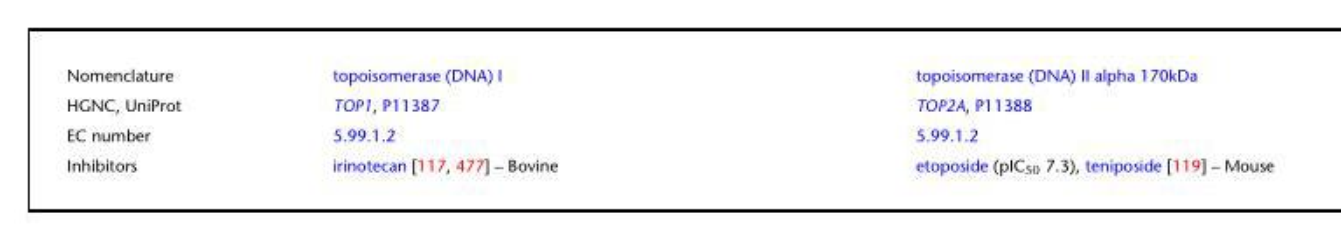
<table><tbody><tr><td>Nomenclature</td><td>topoisomerase (DNA) I</td><td>topoisomerase (DNA) II alpha 170kDa</td></tr><tr><td>HGNC, UniProt</td><td>TOP1, P11387</td><td>TOP2A, P11388</td></tr><tr><td>EC number</td><td>5.99.1.2</td><td>5.99.1.2</td></tr><tr><td>Inhibitors</td><td>irinotecan [117, 477] – Bovine</td><td>etoposide (pIC<sub>50</sub> 7.3), teniposide [119] – Mouse</td></tr></tbody></table>